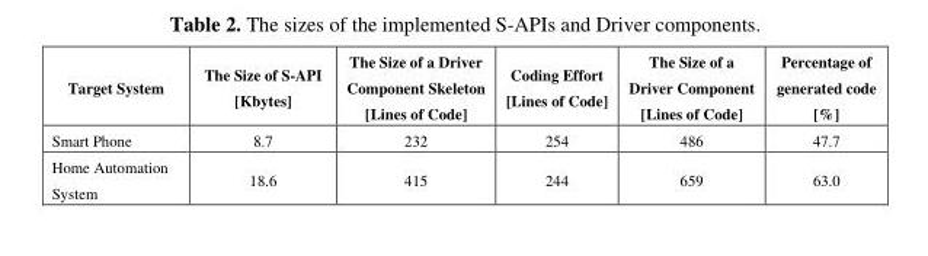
<table><thead><tr><td>Target System</td><td>The Size of S-API [Kbytes]</td><td>The Size of a Driver Component Skeleton [Lines of Code]</td><td>Coding Effort [Lines of Code]</td><td>The Size of a Driver Component [Lines of Code]</td><td>Percentage of generated code [%]</td></tr></thead><tbody><tr><td>Smart Phone</td><td>8.7</td><td>232</td><td>254</td><td>486</td><td>47.7</td></tr><tr><td>Home Automation System</td><td>18.6</td><td>415</td><td>244</td><td>659</td><td>63.0</td></tr></tbody></table>